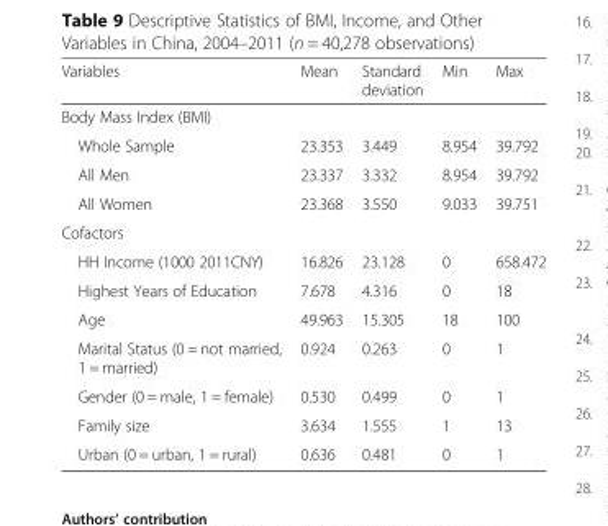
<table><thead><tr><td>Variables</td><td>Mean</td><td>Standard deviation</td><td>Min</td><td>Max</td></tr></thead><tbody><tr><td colspan="5">Body Mass Index (BMI)</td></tr><tr><td>Whole Sample</td><td>23.353</td><td>3.449</td><td>8.954</td><td>39.792</td></tr><tr><td>All Men</td><td>23.337</td><td>3.332</td><td>8.954</td><td>39.792</td></tr><tr><td>All Women</td><td>23.368</td><td>3.550</td><td>9.033</td><td>39.751</td></tr><tr><td colspan="5">Cofactors</td></tr><tr><td>HH Income (1000 2011CNY)</td><td>16.826</td><td>23.128</td><td>0</td><td>658.472</td></tr><tr><td>Highest Years of Education</td><td>7.678</td><td>4.316</td><td>0</td><td>18</td></tr><tr><td>Age</td><td>49.963</td><td>15.305</td><td>18</td><td>100</td></tr><tr><td>Marital Status (0 = not married, 1 = married)</td><td>0.924</td><td>0.263</td><td>0</td><td>1</td></tr><tr><td>Gender (0 = male, 1 = female)</td><td>0.530</td><td>0.499</td><td>0</td><td>1</td></tr><tr><td>Family size</td><td>3.634</td><td>1.555</td><td>1</td><td>13</td></tr><tr><td>Urban (0 = urban, 1 = rural)</td><td>0.636</td><td>0.481</td><td>0</td><td>1</td></tr></tbody></table>